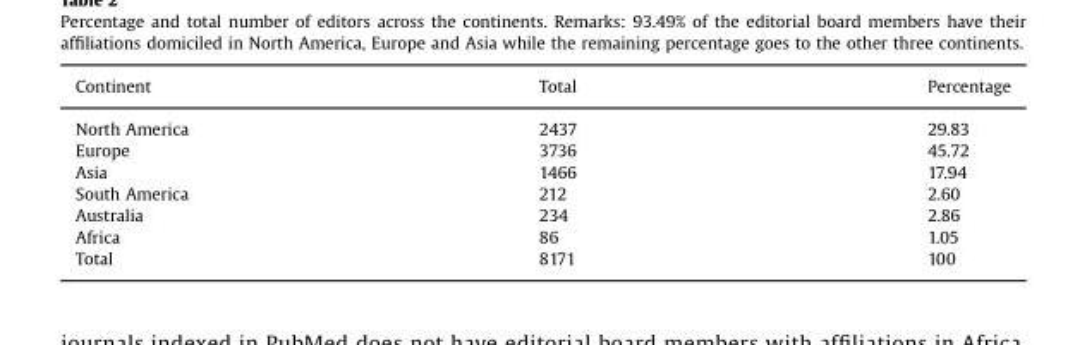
<table><thead><tr><td>Continent</td><td>Total</td><td>Percentage</td></tr></thead><tbody><tr><td>North America</td><td>2437</td><td>29.83</td></tr><tr><td>Europe</td><td>3736</td><td>45.72</td></tr><tr><td>Asia</td><td>1466</td><td>17.94</td></tr><tr><td>South America</td><td>212</td><td>2.60</td></tr><tr><td>Australia</td><td>234</td><td>2.86</td></tr><tr><td>Africa</td><td>86</td><td>1.05</td></tr><tr><td>Total</td><td>8171</td><td>100</td></tr></tbody></table>